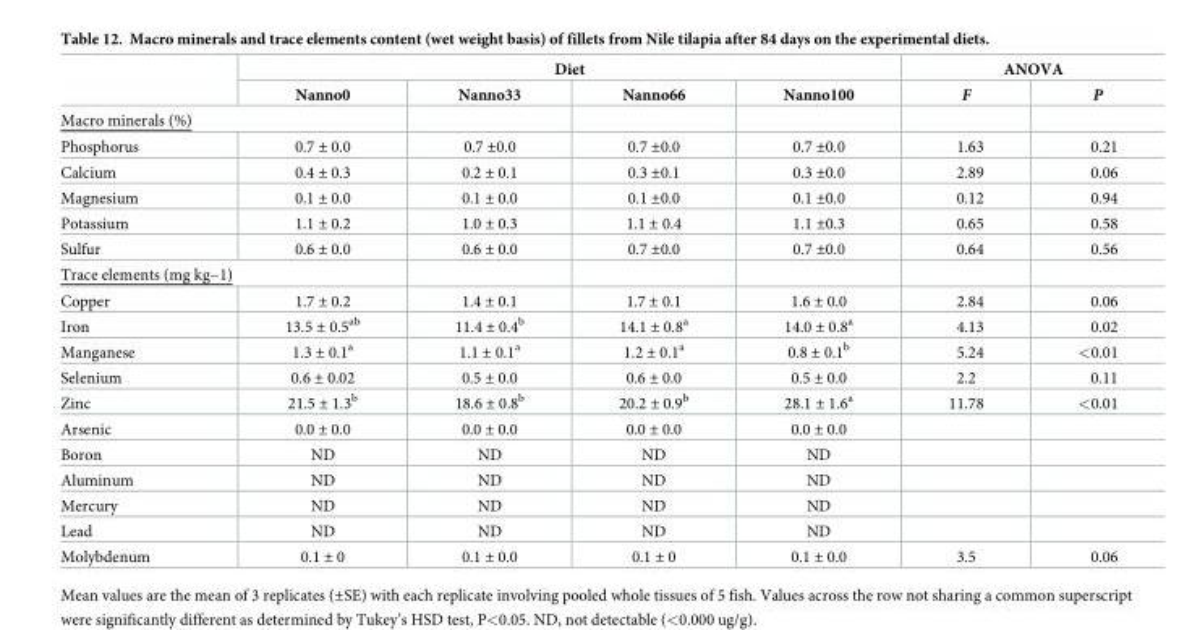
<table><thead><tr><td rowspan="2"></td><td colspan="4">Diet</td><td colspan="2">ANOVA</td></tr><tr><td>Nanno0</td><td>Nanno33</td><td>Nanno66</td><td>Nanno100</td><td>F</td><td>P</td></tr></thead><tbody><tr><td colspan="7">Macro minerals (%)</td></tr><tr><td>Phosphorus</td><td>0.7 ± 0.0</td><td>0.7 ±0.0</td><td>0.7 ±0.0</td><td>0.7 ±0.0</td><td>1.63</td><td>0.21</td></tr><tr><td>Calcium</td><td>0.4 ± 0.3</td><td>0.2 ± 0.1</td><td>0.3 ±0.1</td><td>0.3 ±0.0</td><td>2.89</td><td>0.06</td></tr><tr><td>Magnesium</td><td>0.1 ± 0.0</td><td>0.1 ± 0.0</td><td>0.1 ±0.0</td><td>0.1 ±0.0</td><td>0.12</td><td>0.94</td></tr><tr><td>Potassium</td><td>1.1 ± 0.2</td><td>1.0 ± 0.3</td><td>1.1 ± 0.4</td><td>1.1 ±0.3</td><td>0.65</td><td>0.58</td></tr><tr><td>Sulfur</td><td>0.6 ± 0.0</td><td>0.6 ± 0.0</td><td>0.7 ±0.0</td><td>0.7 ±0.0</td><td>0.64</td><td>0.56</td></tr><tr><td colspan="7">Trace elements (mg kg−1)</td></tr><tr><td>Copper</td><td>1.7 ± 0.2</td><td>1.4 ± 0.1</td><td>1.7 ± 0.1</td><td>1.6 ± 0.0</td><td>2.84</td><td>0.06</td></tr><tr><td>Iron</td><td>13.5 ± 0.5<sup>ab</sup></td><td>11.4 ± 0.4<sup>b</sup></td><td>14.1 ± 0.8<sup>a</sup></td><td>14.0 ± 0.8<sup>a</sup></td><td>4.13</td><td>0.02</td></tr><tr><td>Manganese</td><td>1.3 ± 0.1<sup>a</sup></td><td>1.1 ± 0.1<sup>a</sup></td><td>1.2 ± 0.1<sup>a</sup></td><td>0.8 ± 0.1<sup>b</sup></td><td>5.24</td><td>&lt;0.01</td></tr><tr><td>Selenium</td><td>0.6 ± 0.02</td><td>0.5 ± 0.0</td><td>0.6 ± 0.0</td><td>0.5 ± 0.0</td><td>2.2</td><td>0.11</td></tr><tr><td>Zinc</td><td>21.5 ± 1.3<sup>b</sup></td><td>18.6 ± 0.8<sup>b</sup></td><td>20.2 ± 0.9<sup>b</sup></td><td>28.1 ± 1.6<sup>a</sup></td><td>11.78</td><td>&lt;0.01</td></tr><tr><td>Arsenic</td><td>0.0 ± 0.0</td><td>0.0 ± 0.0</td><td>0.0 ± 0.0</td><td>0.0 ± 0.0</td><td></td><td></td></tr><tr><td>Boron</td><td>ND</td><td>ND</td><td>ND</td><td>ND</td><td></td><td></td></tr><tr><td>Aluminum</td><td>ND</td><td>ND</td><td>ND</td><td>ND</td><td></td><td></td></tr><tr><td>Mercury</td><td>ND</td><td>ND</td><td>ND</td><td>ND</td><td></td><td></td></tr><tr><td>Lead</td><td>ND</td><td>ND</td><td>ND</td><td>ND</td><td></td><td></td></tr><tr><td>Molybdenum</td><td>0.1 ± 0</td><td>0.1 ± 0.0</td><td>0.1 ± 0</td><td>0.1 ± 0.0</td><td>3.5</td><td>0.06</td></tr></tbody></table>